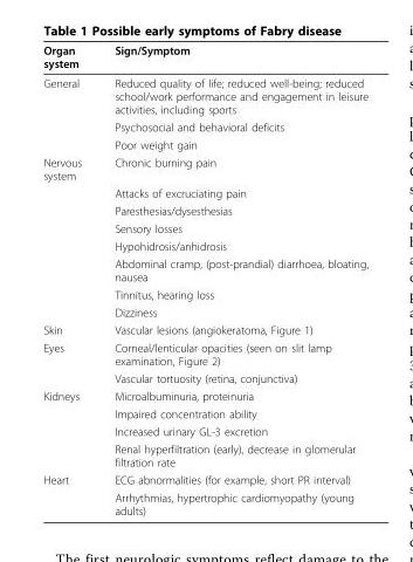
<table><thead><tr><td>Organ system</td><td>Sign/Symptom</td></tr></thead><tbody><tr><td rowspan="3">General</td><td>Reduced quality of life; reduced well-being; reduced school/work performance and engagement in leisure activities, including sports</td></tr><tr><td>Psychosocial and behavioral deficits</td></tr><tr><td>Poor weight gain</td></tr><tr><td rowspan="8">Nervous system</td><td>Chronic burning pain</td></tr><tr><td>Attacks of excruciating pain</td></tr><tr><td>Paresthesias/dysesthesias</td></tr><tr><td>Sensory losses</td></tr><tr><td>Hypohidrosis/anhidrosis</td></tr><tr><td>Abdominal cramp, (post-prandial) diarrhoea, bloating, nausea</td></tr><tr><td>Tinnitus, hearing loss</td></tr><tr><td>Dizziness</td></tr><tr><td>Skin</td><td>Vascular lesions (angiokeratoma, Figure 1)</td></tr><tr><td rowspan="2">Eyes</td><td>Corneal/lenticular opacities (seen on slit lamp examination, Figure 2)</td></tr><tr><td>Vascular tortuosity (retina, conjunctiva)</td></tr><tr><td rowspan="4">Kidneys</td><td>Microalbuminuria, proteinuria</td></tr><tr><td>Impaired concentration ability</td></tr><tr><td>Increased urinary GL-3 excretion</td></tr><tr><td>Renal hyperfiltration (early), decrease in glomerular filtration rate</td></tr><tr><td rowspan="2">Heart</td><td>ECG abnormalities (for example, short PR interval)</td></tr><tr><td>Arrhythmias, hypertrophic cardiomyopathy (young adults)</td></tr></tbody></table>